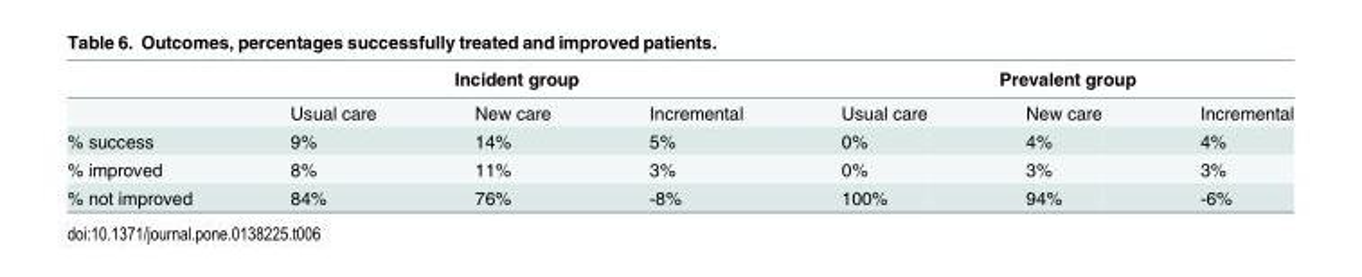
<table><thead><tr><td rowspan="2"></td><td colspan="3">Incident group</td><td colspan="3">Prevalent group</td></tr><tr><td>Usual care</td><td>New care</td><td>Incremental</td><td>Usual care</td><td>New care</td><td>Incremental</td></tr></thead><tbody><tr><td>% success</td><td>9%</td><td>14%</td><td>5%</td><td>0%</td><td>4%</td><td>4%</td></tr><tr><td>% improved</td><td>8%</td><td>11%</td><td>3%</td><td>0%</td><td>3%</td><td>3%</td></tr><tr><td>% not improved</td><td>84%</td><td>76%</td><td>-8%</td><td>100%</td><td>94%</td><td>-6%</td></tr></tbody></table>